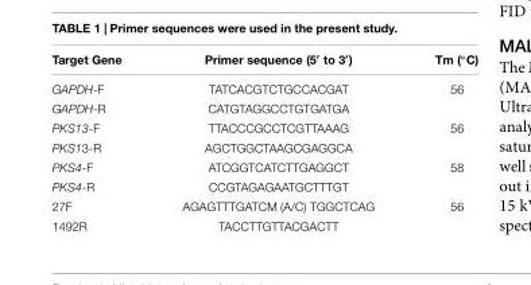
<table><thead><tr><td>Target Gene</td><td>Primer sequence (5′ to 3′)</td><td>Tm (◦C)</td></tr></thead><tbody><tr><td>GAPDH-F</td><td>TATCACGTCTGCCACGAT</td><td>56</td></tr><tr><td>GAPDH-R</td><td>CATGTAGGCCTGTGATGA</td><td></td></tr><tr><td>PKS13-F</td><td>TTACCCGCCTCGTTAAAG</td><td>56</td></tr><tr><td>PKS13-R</td><td>AGCTGGCTAAGCGAGGCA</td><td></td></tr><tr><td>PKS4-F</td><td>ATCGGTCATCTTGAGGCT</td><td>58</td></tr><tr><td>PKS4-R</td><td>CCGTAGAGAATGCTTTGT</td><td></td></tr><tr><td>27F</td><td>AGAGTTTGATCM (A/C) TGGCTCAG</td><td>56</td></tr><tr><td>1492R</td><td>TACCTTGTTACGACTT</td><td></td></tr></tbody></table>